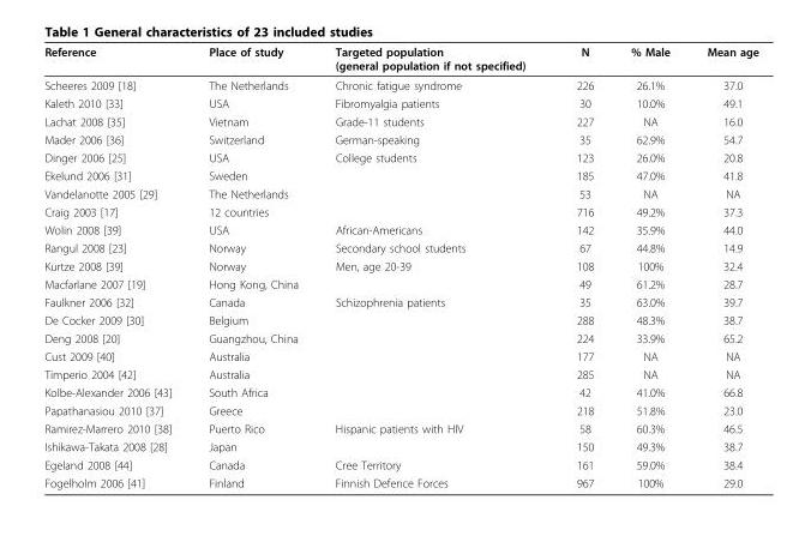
<table><thead><tr><td>Reference</td><td>Place of study</td><td>Targeted population (general population if not specified)</td><td>N</td><td>% Male</td><td>Mean age</td></tr></thead><tbody><tr><td>Scheeres 2009 [18]</td><td>The Netherlands</td><td>Chronic fatigue syndrome</td><td>226</td><td>26.1%</td><td>37.0</td></tr><tr><td>Kaleth 2010 [33]</td><td>USA</td><td>Fibromyalgia patients</td><td>30</td><td>10.0%</td><td>49.1</td></tr><tr><td>Lachat 2008 [35]</td><td>Vietnam</td><td>Grade-11 students</td><td>227</td><td>NA</td><td>16.0</td></tr><tr><td>Mader 2006 [36]</td><td>Switzerland</td><td>German-speaking</td><td>35</td><td>62.9%</td><td>54.7</td></tr><tr><td>Dinger 2006 [25]</td><td>USA</td><td>College students</td><td>123</td><td>26.0%</td><td>20.8</td></tr><tr><td>Ekelund 2006 [31]</td><td>Sweden</td><td></td><td>185</td><td>47.0%</td><td>41.8</td></tr><tr><td>Vandelanotte 2005 [29]</td><td>The Netherlands</td><td></td><td>53</td><td>NA</td><td>NA</td></tr><tr><td>Craig 2003 [17]</td><td>12 countries</td><td></td><td>716</td><td>49.2%</td><td>37.3</td></tr><tr><td>Wolin 2008 [39]</td><td>USA</td><td>African-Americans</td><td>142</td><td>35.9%</td><td>44.0</td></tr><tr><td>Rangul 2008 [23]</td><td>Norway</td><td>Secondary school students</td><td>67</td><td>44.8%</td><td>14.9</td></tr><tr><td>Kurtze 2008 [39]</td><td>Norway</td><td>Men, age 20-39</td><td>108</td><td>100%</td><td>32.4</td></tr><tr><td>Macfarlane 2007 [19]</td><td>Hong Kong, China</td><td></td><td>49</td><td>61.2%</td><td>28.7</td></tr><tr><td>Faulkner 2006 [32]</td><td>Canada</td><td>Schizophrenia patients</td><td>35</td><td>63.0%</td><td>39.7</td></tr><tr><td>De Cocker 2009 [30]</td><td>Belgium</td><td></td><td>288</td><td>48.3%</td><td>38.7</td></tr><tr><td>Deng 2008 [20]</td><td>Guangzhou, China</td><td></td><td>224</td><td>33.9%</td><td>65.2</td></tr><tr><td>Cust 2009 [40]</td><td>Australia</td><td></td><td>177</td><td>NA</td><td>NA</td></tr><tr><td>Timperio 2004 [42]</td><td>Australia</td><td></td><td>285</td><td>NA</td><td>NA</td></tr><tr><td>Kolbe-Alexander 2006 [43]</td><td>South Africa</td><td></td><td>42</td><td>41.0%</td><td>66.8</td></tr><tr><td>Papathanasiou 2010 [37]</td><td>Greece</td><td></td><td>218</td><td>51.8%</td><td>23.0</td></tr><tr><td>Ramirez-Marrero 2010 [38]</td><td>Puerto Rico</td><td>Hispanic patients with HIV</td><td>58</td><td>60.3%</td><td>46.5</td></tr><tr><td>Ishikawa-Takata 2008 [28]</td><td>Japan</td><td></td><td>150</td><td>49.3%</td><td>38.7</td></tr><tr><td>Egeland 2008 [44]</td><td>Canada</td><td>Cree Territory</td><td>161</td><td>59.0%</td><td>38.4</td></tr><tr><td>Fogelholm 2006 [41]</td><td>Finland</td><td>Finnish Defence Forces</td><td>967</td><td>100%</td><td>29.0</td></tr></tbody></table>